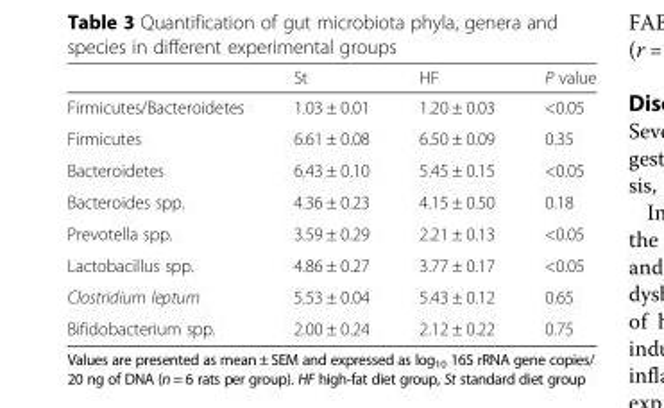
<table><thead><tr><td></td><td>St</td><td>HF</td><td>P value</td></tr></thead><tbody><tr><td>Firmicutes/Bacteroidetes</td><td>1.03 ± 0.01</td><td>1.20 ± 0.03</td><td>&lt;0.05</td></tr><tr><td>Firmicutes</td><td>6.61 ± 0.08</td><td>6.50 ± 0.09</td><td>0.35</td></tr><tr><td>Bacteroidetes</td><td>6.43 ± 0.10</td><td>5.45 ± 0.15</td><td>&lt;0.05</td></tr><tr><td>Bacteroides spp.</td><td>4.36 ± 0.23</td><td>4.15 ± 0.50</td><td>0.18</td></tr><tr><td>Prevotella spp.</td><td>3.59 ± 0.29</td><td>2.21 ± 0.13</td><td>&lt;0.05</td></tr><tr><td>Lactobacillus spp.</td><td>4.86 ± 0.27</td><td>3.77 ± 0.17</td><td>&lt;0.05</td></tr><tr><td>Clostridium leptum</td><td>5.53 ± 0.04</td><td>5.43 ± 0.12</td><td>0.65</td></tr><tr><td>Bifidobacterium spp.</td><td>2.00 ± 0.24</td><td>2.12 ± 0.22</td><td>0.75</td></tr></tbody></table>